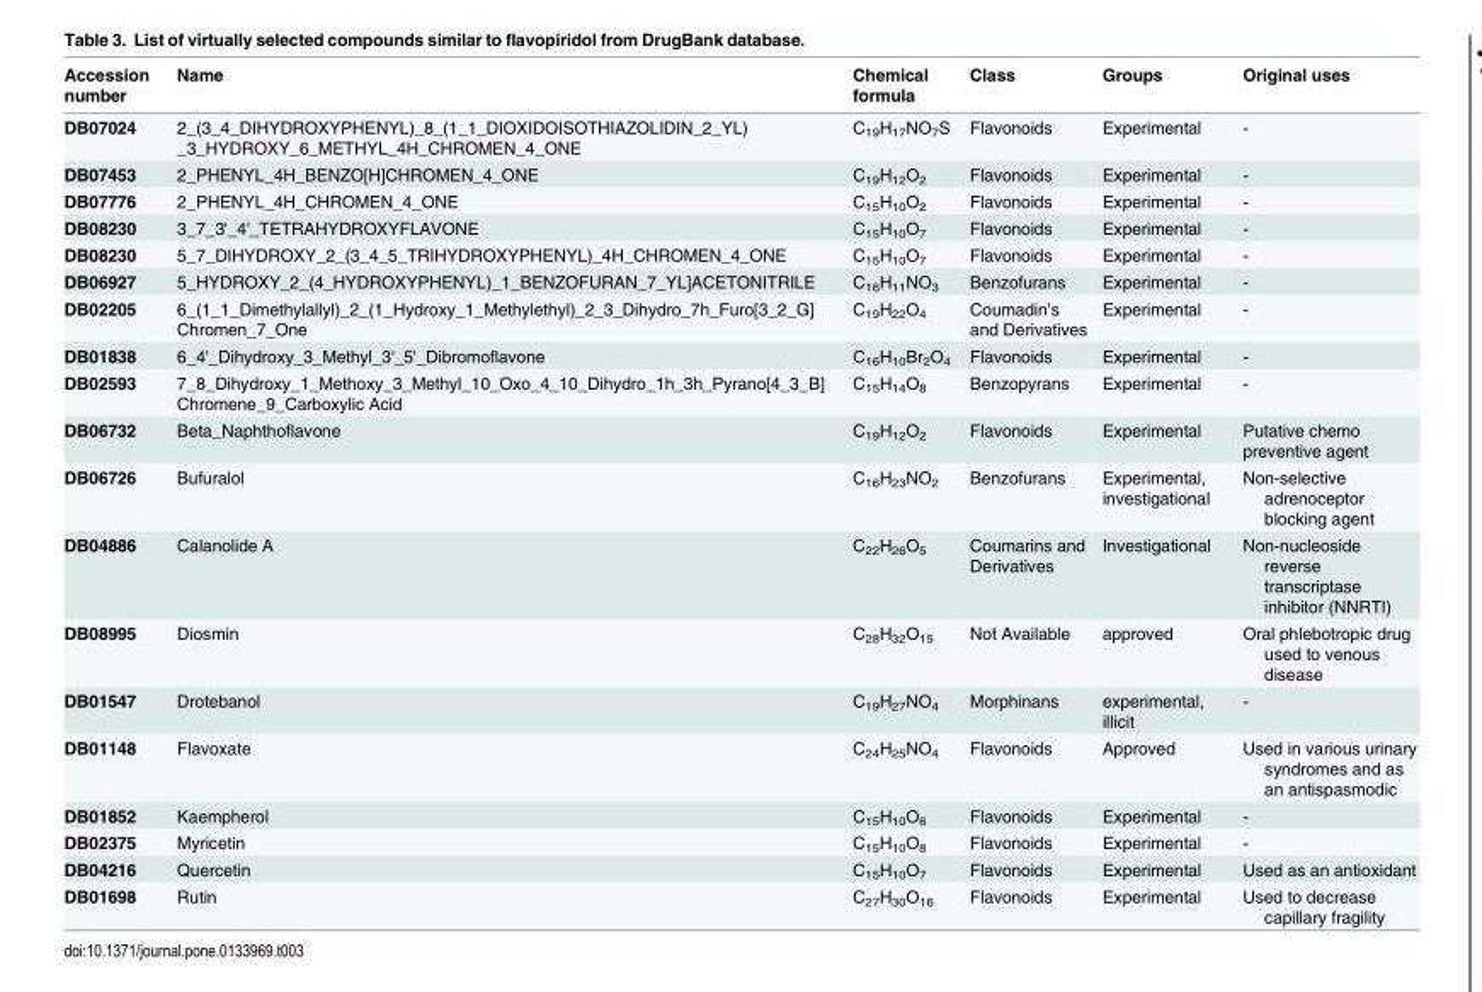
<table><thead><tr><td>Accession number</td><td>Name</td><td>Chemical formula</td><td>Class</td><td>Groups</td><td>Original uses</td></tr></thead><tbody><tr><td>DB07024</td><td>2_(3_4_DIHYDROXYPHENYL)_8_(1_1_DIOXIDOISOTHIAZOLIDIN_2_YL) _3_HYDROXY_6_METHYL_4H_CHROMEN_4_ONE</td><td>C<sub>19</sub>H<sub>17</sub>NO<sub>7</sub>S</td><td>Flavonoids</td><td>Experimental</td><td>-</td></tr><tr><td>DB07453</td><td>2_PHENYL_4H_BENZO[H]CHROMEN_4_ONE</td><td>C<sub>19</sub>H<sub>12</sub>O<sub>2</sub></td><td>Flavonoids</td><td>Experimental</td><td>-</td></tr><tr><td>DB07776</td><td>2_PHENYL_4H_CHROMEN_4_ONE</td><td>C<sub>15</sub>H<sub>10</sub>O<sub>2</sub></td><td>Flavonoids</td><td>Experimental</td><td>-</td></tr><tr><td>DB08230</td><td>3_7_3&#x27;_4&#x27;_TETRAHYDROXYFLAVONE</td><td>C<sub>15</sub>H<sub>10</sub>O<sub>7</sub></td><td>Flavonoids</td><td>Experimental</td><td>-</td></tr><tr><td>DB08230</td><td>5_7_DIHYDROXY_2_(3_4_5_TRIHYDROXYPHENYL)_4H_CHROMEN_4_ONE</td><td>C<sub>15</sub>H<sub>10</sub>O<sub>7</sub></td><td>Flavonoids</td><td>Experimental</td><td>-</td></tr><tr><td>DB06927</td><td>5_HYDROXY_2_(4_HYDROXYPHENYL)_1_BENZOFURAN_7_YL]ACETONITRILE</td><td>C<sub>16</sub>H<sub>11</sub>NO<sub>3</sub></td><td>Benzofurans</td><td>Experimental</td><td>-</td></tr><tr><td>DB02205</td><td>6_(1_1_Dimethylallyl)_2_(1_Hydroxy_1_Methylethyl)_2_3_Dihydro_7h_Furo[3_2_G] Chromen_7_One</td><td>C<sub>19</sub>H<sub>22</sub>O<sub>4</sub></td><td>Coumadin’s and Derivatives</td><td>Experimental</td><td>-</td></tr><tr><td>DB01838</td><td>6_4&#x27;_Dihydroxy_3_Methyl_3&#x27;_5&#x27;_Dibromoflavone</td><td>C<sub>16</sub>H<sub>10</sub>Br<sub>2</sub>O<sub>4</sub></td><td>Flavonoids</td><td>Experimental</td><td>-</td></tr><tr><td>DB02593</td><td>7_8_Dihydroxy_1_Methoxy_3_Methyl_10_Oxo_4_10_Dihydro_1h_3h_Pyrano[4_3_B] Chromene_9_Carboxylic Acid</td><td>C<sub>15</sub>H<sub>14</sub>O<sub>8</sub></td><td>Benzopyrans</td><td>Experimental</td><td>-</td></tr><tr><td>DB06732</td><td>Beta_Naphthoflavone</td><td>C<sub>19</sub>H<sub>12</sub>O<sub>2</sub></td><td>Flavonoids</td><td>Experimental</td><td>Putative chemo preventive agent</td></tr><tr><td>DB06726</td><td>Bufuralol</td><td>C<sub>16</sub>H<sub>23</sub>NO<sub>2</sub></td><td>Benzofurans</td><td>Experimental, investigational</td><td>Non-selective adrenoceptor blocking agent</td></tr><tr><td>DB04886</td><td>Calanolide A</td><td>C<sub>22</sub>H<sub>26</sub>O<sub>5</sub></td><td>Coumarins and Derivatives</td><td>Investigational</td><td>Non-nucleoside reverse transcriptase inhibitor (NNRTI)</td></tr><tr><td>DB08995</td><td>Diosmin</td><td>C<sub>28</sub>H<sub>32</sub>O<sub>15</sub></td><td>Not Available</td><td>approved</td><td>Oral phlebotropic drug used to venous disease</td></tr><tr><td>DB01547</td><td>Drotebanol</td><td>C<sub>19</sub>H<sub>27</sub>NO<sub>4</sub></td><td>Morphinans</td><td>experimental, illicit</td><td>-</td></tr><tr><td>DB01148</td><td>Flavoxate</td><td>C<sub>24</sub>H<sub>25</sub>NO<sub>4</sub></td><td>Flavonoids</td><td>Approved</td><td>Used in various urinary syndromes and as an antispasmodic</td></tr><tr><td>DB01852</td><td>Kaempherol</td><td>C<sub>15</sub>H<sub>10</sub>O<sub>6</sub></td><td>Flavonoids</td><td>Experimental</td><td>-</td></tr><tr><td>DB02375</td><td>Myricetin</td><td>C<sub>15</sub>H<sub>10</sub>O<sub>8</sub></td><td>Flavonoids</td><td>Experimental</td><td>-</td></tr><tr><td>DB04216</td><td>Quercetin</td><td>C<sub>15</sub>H<sub>10</sub>O<sub>7</sub></td><td>Flavonoids</td><td>Experimental</td><td>Used as an antioxidant</td></tr><tr><td>DB01698</td><td>Rutin</td><td>C<sub>27</sub>H<sub>30</sub>O<sub>16</sub></td><td>Flavonoids</td><td>Experimental</td><td>Used to decrease capillary fragility</td></tr></tbody></table>